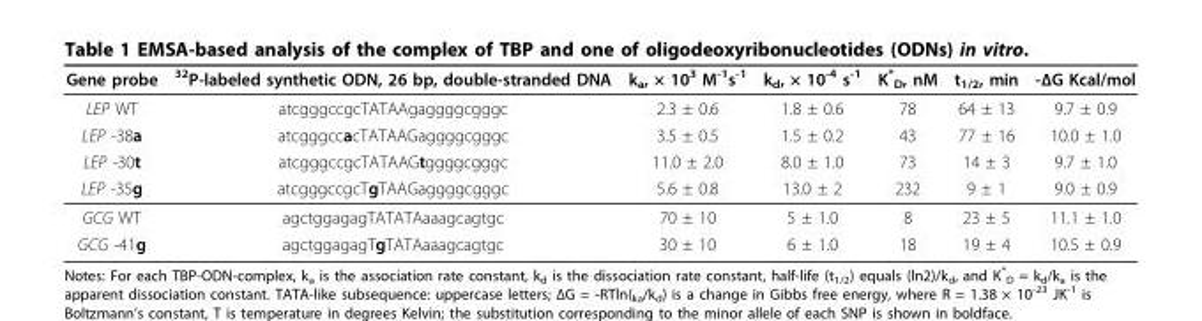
<table><thead><tr><td>Gene probe</td><td><sup>32</sup>P-labeled synthetic ODN, 26 bp, double-stranded DNA</td><td>k<sub>a</sub>, × 10<sup>3</sup> M<sup>-1</sup>s<sup>-1</sup></td><td>k<sub>d</sub>, × 10<sup>-4</sup> s<sup>-1</sup></td><td>K* <sub>D</sub>, nM</td><td>t<sub>1/2</sub>, min</td><td>-ΔG Kcal/mol</td></tr></thead><tbody><tr><td>LEP WT</td><td>atcgggccgcTATAAgaggggcgggc</td><td>2.3 ± 0.6</td><td>1.8 ± 0.6</td><td>78</td><td>64 ± 13</td><td>9.7 ± 0.9</td></tr><tr><td>LEP -38a</td><td>atcgggccacTATAAGaggggcgggc</td><td>3.5 ± 0.5</td><td>1.5 ± 0.2</td><td>43</td><td>77 ± 16</td><td>10.0 ± 1.0</td></tr><tr><td>LEP -30t</td><td>atcgggccgcTATAAGtggggcgggc</td><td>11.0 ± 2.0</td><td>8.0 ± 1.0</td><td>73</td><td>14 ± 3</td><td>9.7 ± 1.0</td></tr><tr><td>LEP -35g</td><td>atcgggccgcTgTAAGaggggcgggc</td><td>5.6 ± 0.8</td><td>13.0 ± 2</td><td>232</td><td>9 ± 1</td><td>9.0 ± 0.9</td></tr><tr><td>GCG WT</td><td>agctggagagTATATAaaagcagtgc</td><td>70 ± 10</td><td>5 ± 1.0</td><td>8</td><td>23 ± 5</td><td>11.1 ± 1.0</td></tr><tr><td>GCG -41g</td><td>agctggagagTgTATAaaagcagtgc</td><td>30 ± 10</td><td>6 ± 1.0</td><td>18</td><td>19 ± 4</td><td>10.5 ± 0.9</td></tr></tbody></table>